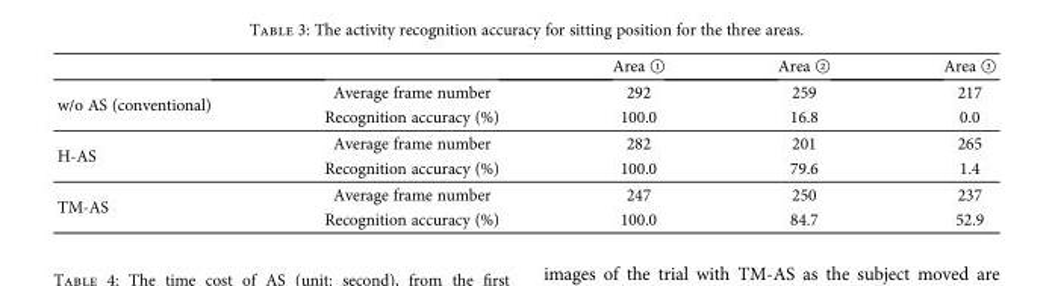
<table><thead><tr><td></td><td></td><td>Area ①</td><td>Area ②</td><td>Area ③</td></tr></thead><tbody><tr><td rowspan="2">w/o AS (conventional)</td><td>Average frame number</td><td>292</td><td>259</td><td>217</td></tr><tr><td>Recognition accuracy (%)</td><td>100.0</td><td>16.8</td><td>0.0</td></tr><tr><td rowspan="2">H-AS</td><td>Average frame number</td><td>282</td><td>201</td><td>265</td></tr><tr><td>Recognition accuracy (%)</td><td>100.0</td><td>79.6</td><td>1.4</td></tr><tr><td rowspan="2">TM-AS</td><td>Average frame number</td><td>247</td><td>250</td><td>237</td></tr><tr><td>Recognition accuracy (%)</td><td>100.0</td><td>84.7</td><td>52.9</td></tr></tbody></table>